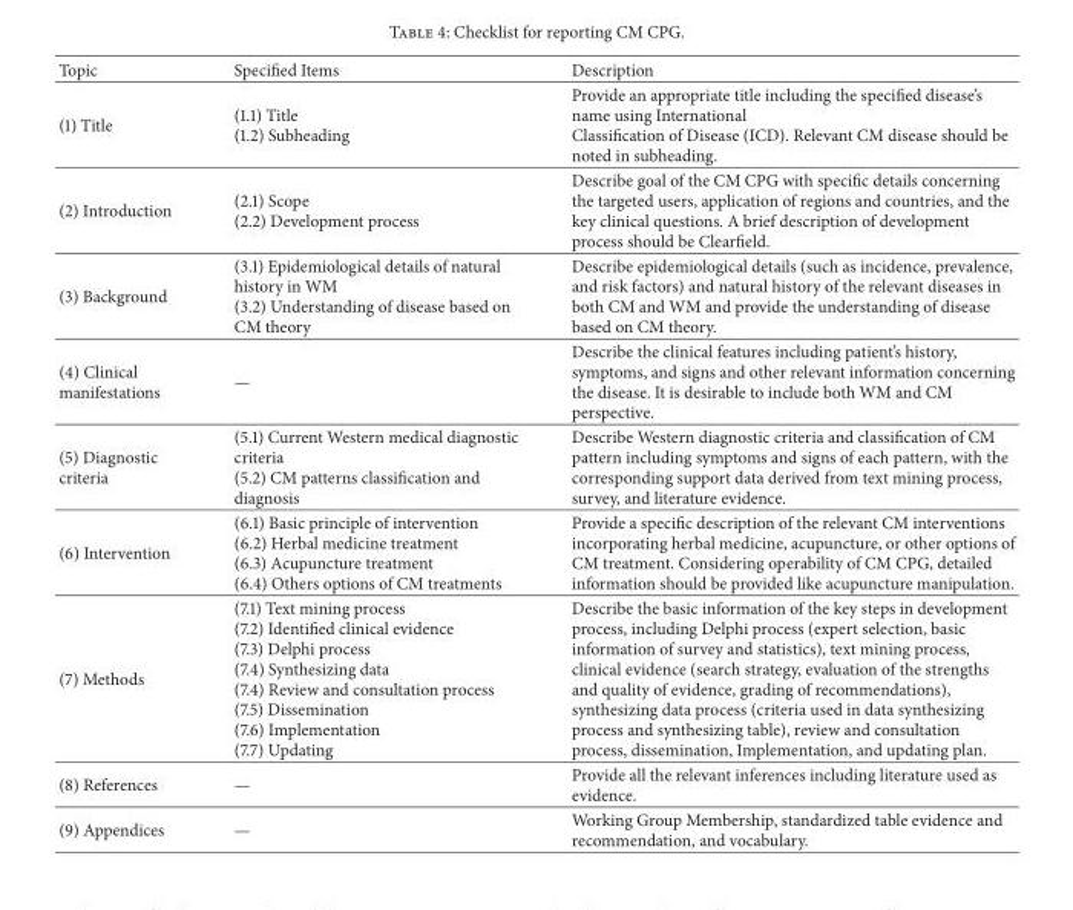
<table><thead><tr><td>Topic</td><td>Specified Items</td><td>Description</td></tr></thead><tbody><tr><td>(1) Title</td><td>(1.1) Title (1.2) Subheading</td><td>Provide an appropriate title including the specified disease’s name using International Classification of Disease (ICD). Relevant CM disease should be noted in subheading.</td></tr><tr><td>(2) Introduction</td><td>(2.1) Scope (2.2) Development process</td><td>Describe goal of the CM CPG with specific details concerning the targeted users, application of regions and countries, and the key clinical questions. A brief description of development process should be Clearfield.</td></tr><tr><td>(3) Background</td><td>(3.1) Epidemiological details of natural history in WM (3.2) Understanding of disease based on CM theory</td><td>Describe epidemiological details (such as incidence, prevalence, and risk factors) and natural history of the relevant diseases in both CM and WM and provide the understanding of disease based on CM theory.</td></tr><tr><td>(4) Clinical manifestations</td><td>—</td><td>Describe the clinical features including patient’s history, symptoms, and signs and other relevant information concerning the disease. It is desirable to include both WM and CM perspective.</td></tr><tr><td>(5) Diagnostic criteria</td><td>(5.1) Current Western medical diagnostic criteria (5.2) CM patterns classification and diagnosis</td><td>Describe Western diagnostic criteria and classification of CM pattern including symptoms and signs of each pattern, with the corresponding support data derived from text mining process, survey, and literature evidence.</td></tr><tr><td>(6) Intervention</td><td>(6.1) Basic principle of intervention (6.2) Herbal medicine treatment (6.3) Acupuncture treatment (6.4) Others options of CM treatments</td><td>Provide a specific description of the relevant CM interventions incorporating herbal medicine, acupuncture, or other options of CM treatment. Considering operability of CM CPG, detailed information should be provided like acupuncture manipulation.</td></tr><tr><td>(7) Methods</td><td>(7.1) Text mining process (7.2) Identified clinical evidence (7.3) Delphi process (7.4) Synthesizing data (7.4) Review and consultation process (7.5) Dissemination (7.6) Implementation (7.7) Updating</td><td>Describe the basic information of the key steps in development process, including Delphi process (expert selection, basic information of survey and statistics), text mining process, clinical evidence (search strategy, evaluation of the strengths and quality of evidence, grading of recommendations), synthesizing data process (criteria used in data synthesizing process and synthesizing table), review and consultation process, dissemination, Implementation, and updating plan.</td></tr><tr><td>(8) References</td><td>—</td><td>Provide all the relevant inferences including literature used as evidence.</td></tr><tr><td>(9) Appendices</td><td>—</td><td>Working Group Membership, standardized table evidence and recommendation, and vocabulary.</td></tr></tbody></table>